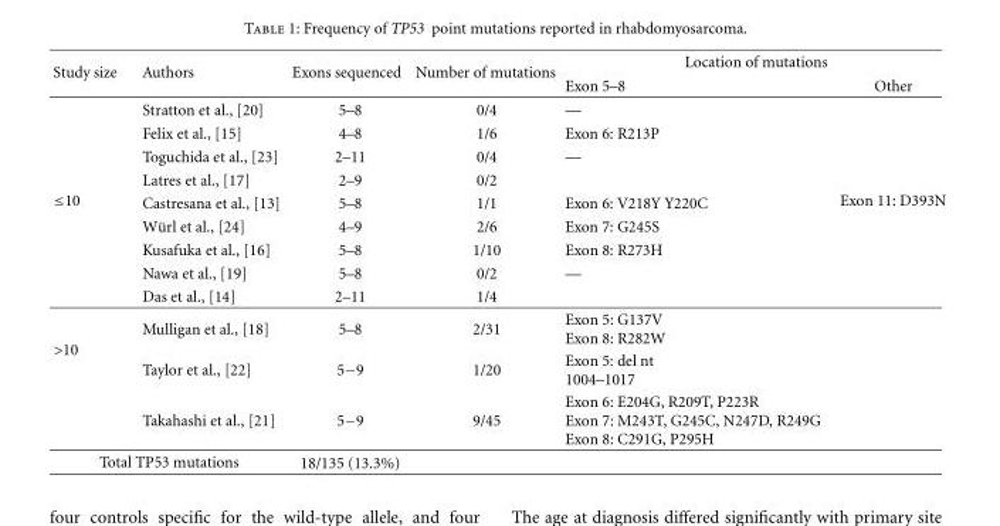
<table><thead><tr><td rowspan="2">Study size</td><td rowspan="2">Authors</td><td rowspan="2">Exons sequenced</td><td rowspan="2">Number of mutations</td><td colspan="2">Location of mutations</td></tr><tr><td>Exon 5–8</td><td>Other</td></tr></thead><tbody><tr><td></td><td>Stratton et al., [20]</td><td>5–8</td><td>0/4</td><td>—</td><td></td></tr><tr><td></td><td>Felix et al., [15]</td><td>4–8</td><td>1/6</td><td>Exon 6: R213P</td><td></td></tr><tr><td></td><td>Toguchida et al., [23]</td><td>2–11</td><td>0/4</td><td>—</td><td></td></tr><tr><td rowspan="6">≤10</td><td>Latres et al., [17]</td><td>2–9</td><td>0/2</td><td></td><td rowspan="3">Exon 11: D393N</td></tr><tr><td>Castresana et al., [13]</td><td>5–8</td><td>1/1</td><td>Exon 6: V218Y Y220C</td></tr><tr><td>W¨url et al., [24]</td><td>4–9</td><td>2/6</td><td>Exon 7: G245S</td></tr><tr><td>Kusafuka et al., [16]</td><td>5–8</td><td>1/10</td><td>Exon 8: R273H</td><td></td></tr><tr><td>Nawa et al., [19]</td><td>5–8</td><td>0/2</td><td>—</td><td></td></tr><tr><td>Das et al., [14]</td><td>2–11</td><td>1/4</td><td></td><td></td></tr><tr><td rowspan="3">&gt;10</td><td>Mulligan et al., [18]</td><td>5–8</td><td>2/31</td><td>Exon 5: G137V Exon 8: R282W</td><td></td></tr><tr><td>Taylor et al., [22]</td><td>5−9</td><td>1/20</td><td>Exon 5: del nt 1004–1017</td><td></td></tr><tr><td>Takahashi et al., [21]</td><td>5−9</td><td>9/45</td><td>Exon 6: E204G, R209T, P223R Exon 7: M243T, G245C, N247D, R249G Exon 8: C291G, P295H</td><td></td></tr><tr><td colspan="2">Total TP53 mutations</td><td>18/135 (13.3%)</td><td></td><td></td><td></td></tr></tbody></table>